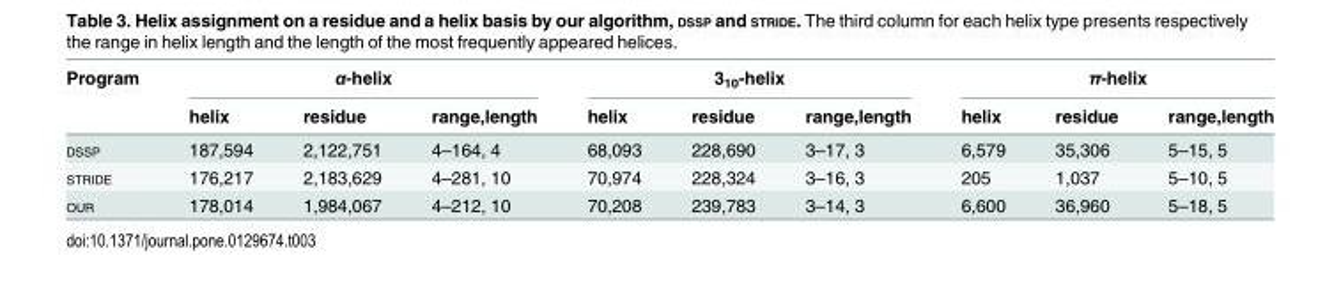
<table><thead><tr><td rowspan="2">Program</td><td colspan="3">α-helix</td><td colspan="3">3<sub>10</sub>-helix</td><td colspan="3">π-helix</td></tr><tr><td>helix</td><td>residue</td><td>range,length</td><td>helix</td><td>residue</td><td>range,length</td><td>helix</td><td>residue</td><td>range,length</td></tr></thead><tbody><tr><td>DSSP</td><td>187,594</td><td>2,122,751</td><td>4–164, 4</td><td>68,093</td><td>228,690</td><td>3–17, 3</td><td>6,579</td><td>35,306</td><td>5–15, 5</td></tr><tr><td>STRIDE</td><td>176,217</td><td>2,183,629</td><td>4–281, 10</td><td>70,974</td><td>228,324</td><td>3–16, 3</td><td>205</td><td>1,037</td><td>5–10, 5</td></tr><tr><td>OUR</td><td>178,014</td><td>1,984,067</td><td>4–212, 10</td><td>70,208</td><td>239,783</td><td>3–14, 3</td><td>6,600</td><td>36,960</td><td>5–18, 5</td></tr></tbody></table>